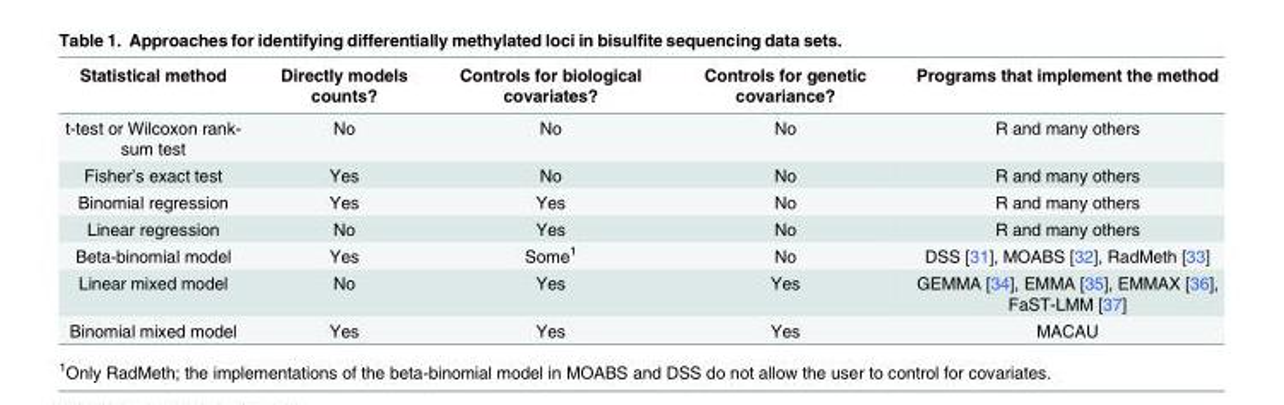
<table><thead><tr><td>Statistical method</td><td>Directly models counts?</td><td>Controls for biological covariates?</td><td>Controls for genetic covariance?</td><td>Programs that implement the method</td></tr></thead><tbody><tr><td>t-test or Wilcoxon rank- sum test</td><td>No</td><td>No</td><td>No</td><td>R and many others</td></tr><tr><td>Fisher’s exact test</td><td>Yes</td><td>No</td><td>No</td><td>R and many others</td></tr><tr><td>Binomial regression</td><td>Yes</td><td>Yes</td><td>No</td><td>R and many others</td></tr><tr><td>Linear regression</td><td>No</td><td>Yes</td><td>No</td><td>R and many others</td></tr><tr><td>Beta-binomial model</td><td>Yes</td><td>Some<sup>1</sup></td><td>No</td><td>DSS [31], MOABS [32], RadMeth [33]</td></tr><tr><td>Linear mixed model</td><td>No</td><td>Yes</td><td>Yes</td><td>GEMMA [34], EMMA [35], EMMAX [36], FaST-LMM [37]</td></tr><tr><td>Binomial mixed model</td><td>Yes</td><td>Yes</td><td>Yes</td><td>MACAU</td></tr></tbody></table>